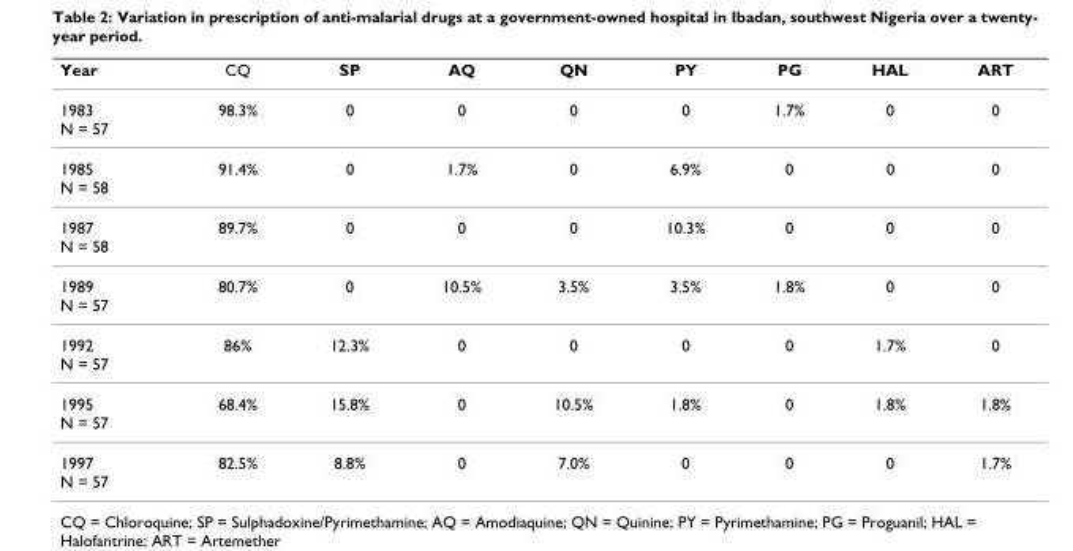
<table><thead><tr><td>Year</td><td>CQ</td><td>SP</td><td>AQ</td><td>QN</td><td>PY</td><td>PG</td><td>HAL</td><td>ART</td></tr></thead><tbody><tr><td>1983 N = 57</td><td>98.3%</td><td>0</td><td>0</td><td>0</td><td>0</td><td>1.7%</td><td>0</td><td>0</td></tr><tr><td>1985 N = 58</td><td>91.4%</td><td>0</td><td>1.7%</td><td>0</td><td>6.9%</td><td>0</td><td>0</td><td>0</td></tr><tr><td>1987 N = 58</td><td>89.7%</td><td>0</td><td>0</td><td>0</td><td>10.3%</td><td>0</td><td>0</td><td>0</td></tr><tr><td>1989 N = 57</td><td>80.7%</td><td>0</td><td>10.5%</td><td>3.5%</td><td>3.5%</td><td>1.8%</td><td>0</td><td>0</td></tr><tr><td>1992 N = 57</td><td>86%</td><td>12.3%</td><td>0</td><td>0</td><td>0</td><td>0</td><td>1.7%</td><td>0</td></tr><tr><td>1995 N = 57</td><td>68.4%</td><td>15.8%</td><td>0</td><td>10.5%</td><td>1.8%</td><td>0</td><td>1.8%</td><td>1.8%</td></tr><tr><td>1997 N = 57</td><td>82.5%</td><td>8.8%</td><td>0</td><td>7.0%</td><td>0</td><td>0</td><td>0</td><td>1.7%</td></tr></tbody></table>